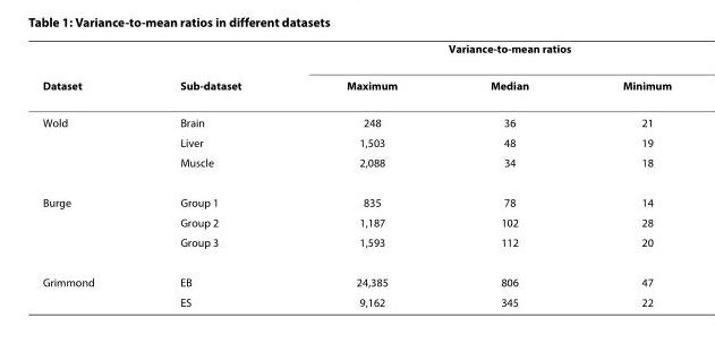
<table><thead><tr><td rowspan="2">Dataset</td><td rowspan="2">Sub-dataset</td><td colspan="3">Variance-to-mean ratios</td></tr><tr><td>Maximum</td><td>Median</td><td>Minimum</td></tr></thead><tbody><tr><td rowspan="3">Wold</td><td>Brain</td><td>248</td><td>36</td><td>21</td></tr><tr><td>Liver</td><td>1,503</td><td>48</td><td>19</td></tr><tr><td>Muscle</td><td>2,088</td><td>34</td><td>18</td></tr><tr><td rowspan="3">Burge</td><td>Group 1</td><td>835</td><td>78</td><td>14</td></tr><tr><td>Group 2</td><td>1,187</td><td>102</td><td>28</td></tr><tr><td>Group 3</td><td>1,593</td><td>112</td><td>20</td></tr><tr><td rowspan="2">Grimmond</td><td>EB</td><td>24,385</td><td>806</td><td>47</td></tr><tr><td>ES</td><td>9,162</td><td>345</td><td>22</td></tr></tbody></table>